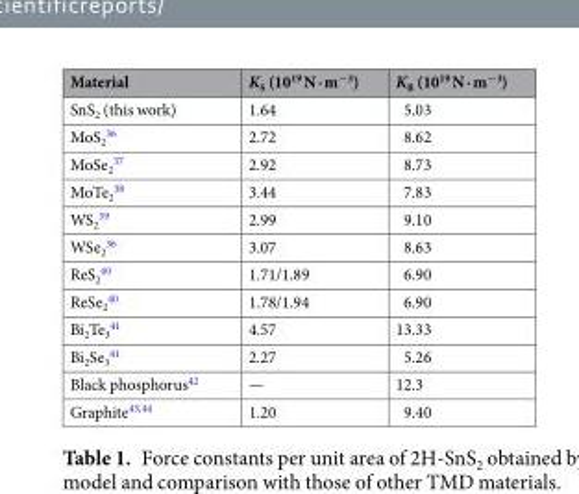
<table><thead><tr><td>Material</td><td>K<sub>S</sub> (10<sup>19</sup> N · m<sup>−3</sup>)</td><td>K<sub>B</sub> (10<sup>19</sup> N · m<sup>−3</sup>)</td></tr></thead><tbody><tr><td>SnS<sub>2</sub> (this work)</td><td>1.64</td><td>5.03</td></tr><tr><td>MoS<sub>2</sub> <sup>36</sup></td><td>2.72</td><td>8.62</td></tr><tr><td>MoSe<sub>2</sub> <sup>37</sup></td><td>2.92</td><td>8.73</td></tr><tr><td>MoTe<sub>2</sub> <sup>38</sup></td><td>3.44</td><td>7.83</td></tr><tr><td>WS<sub>2</sub> <sup>39</sup></td><td>2.99</td><td>9.10</td></tr><tr><td>WSe<sub>2</sub> <sup>36</sup></td><td>3.07</td><td>8.63</td></tr><tr><td>ReS<sub>2</sub> <sup>40</sup></td><td>1.71/1.89</td><td>6.90</td></tr><tr><td>ReSe<sub>2</sub> <sup>40</sup></td><td>1.78/1.94</td><td>6.90</td></tr><tr><td>Bi<sub>2</sub>Te<sub>3</sub> <sup>41</sup></td><td>4.57</td><td>13.33</td></tr><tr><td>Bi<sub>2</sub>Se<sub>3</sub> <sup>41</sup></td><td>2.27</td><td>5.26</td></tr><tr><td>Black phosphorus<sup>42</sup></td><td>—</td><td>12.3</td></tr><tr><td>Graphite<sup>43,44</sup></td><td>1.20</td><td>9.40</td></tr></tbody></table>